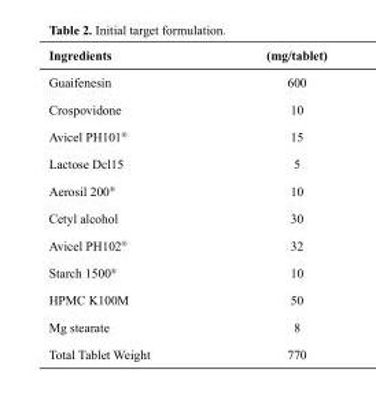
<table><thead><tr><td>Ingredients</td><td>(mg/tablet)</td></tr></thead><tbody><tr><td>Guaifenesin</td><td>600</td></tr><tr><td>Crospovidone</td><td>10</td></tr><tr><td>Avicel PH101<sup>®</sup></td><td>15</td></tr><tr><td>Lactose Dcl15</td><td>5</td></tr><tr><td>Aerosil 200<sup>®</sup></td><td>10</td></tr><tr><td>Cetyl alcohol</td><td>30</td></tr><tr><td>Avicel PH102<sup>®</sup></td><td>32</td></tr><tr><td>Starch 1500<sup>®</sup></td><td>10</td></tr><tr><td>HPMC K100M</td><td>50</td></tr><tr><td>Mg stearate</td><td>8</td></tr><tr><td>Total Tablet Weight</td><td>770</td></tr></tbody></table>